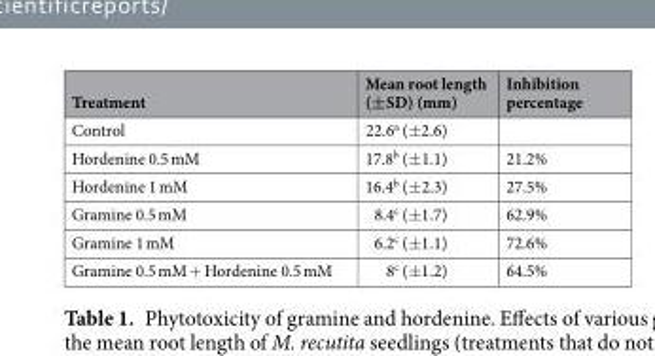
<table><thead><tr><td>Treatment</td><td>Mean root length (±SD) (mm)</td><td>Inhibition percentage</td></tr></thead><tbody><tr><td>Control</td><td>22.6<sup>a</sup> (±2.6)</td><td></td></tr><tr><td>Hordenine 0.5 mM</td><td>17.8<sup>b</sup> (±1.1)</td><td>21.2%</td></tr><tr><td>Hordenine 1 mM</td><td>16.4<sup>b</sup> (±2.3)</td><td>27.5%</td></tr><tr><td>Gramine 0.5 mM</td><td>8.4<sup>c</sup> (±1.7)</td><td>62.9%</td></tr><tr><td>Gramine 1 mM</td><td>6.2<sup>c</sup> (±1.1)</td><td>72.6%</td></tr><tr><td>Gramine 0.5 mM + Hordenine 0.5 mM</td><td>8<sup>c</sup> (±1.2)</td><td>64.5%</td></tr></tbody></table>